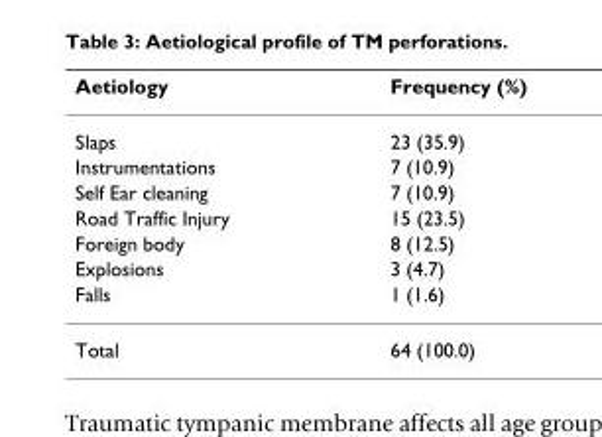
<table><thead><tr><td>Aetiology</td><td>Frequency (%)</td></tr></thead><tbody><tr><td>Slaps</td><td>23 (35.9)</td></tr><tr><td>Instrumentations</td><td>7 (10.9)</td></tr><tr><td>Self Ear cleaning</td><td>7 (10.9)</td></tr><tr><td>Road Traffic Injury</td><td>15 (23.5)</td></tr><tr><td>Foreign body</td><td>8 (12.5)</td></tr><tr><td>Explosions</td><td>3 (4.7)</td></tr><tr><td>Falls</td><td>1 (1.6)</td></tr><tr><td>Total</td><td>64 (100.0)</td></tr></tbody></table>